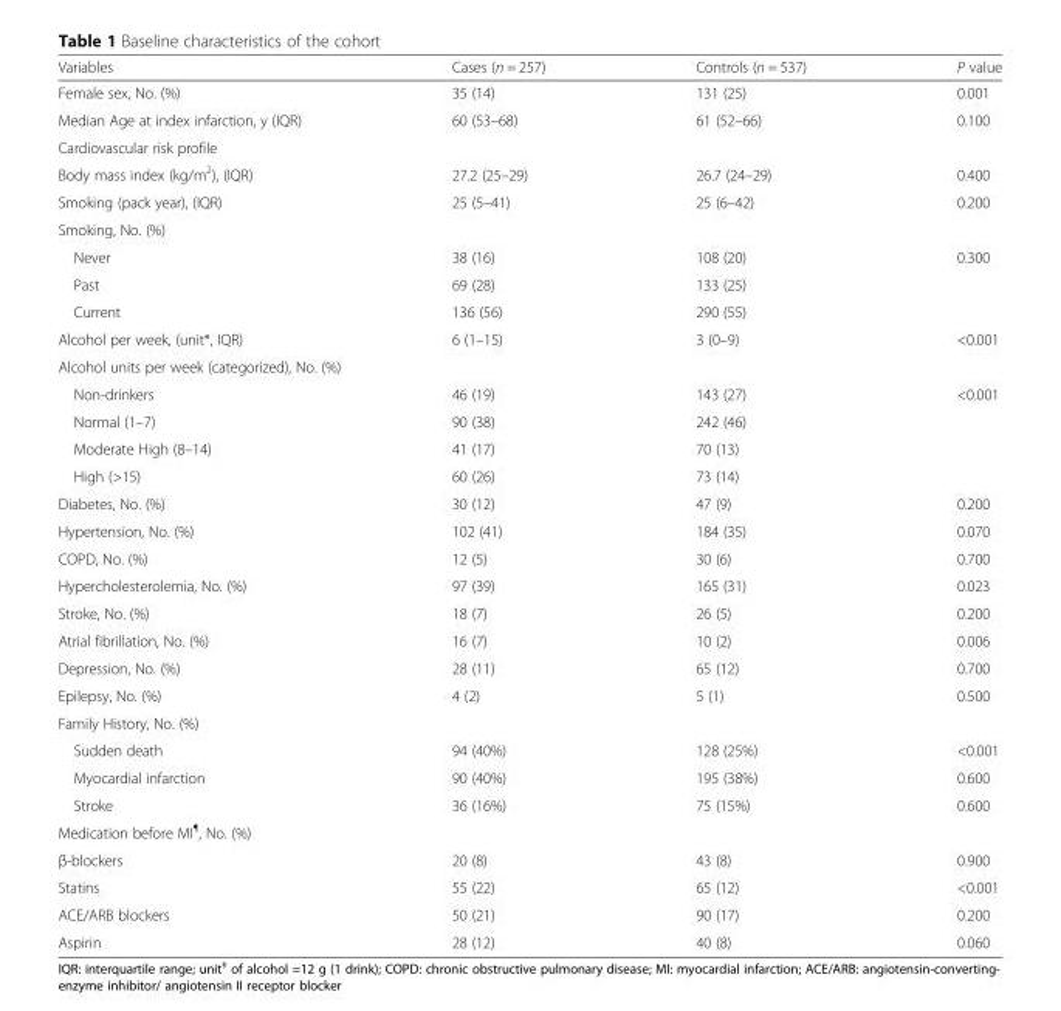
<table><thead><tr><td>Variables</td><td>Cases (n = 257)</td><td>Controls (n = 537)</td><td>P value</td></tr></thead><tbody><tr><td>Female sex, No. (%)</td><td>35 (14)</td><td>131 (25)</td><td>0.001</td></tr><tr><td>Median Age at index infarction, y (IQR)</td><td>60 (53–68)</td><td>61 (52–66)</td><td>0.100</td></tr><tr><td colspan="4">Cardiovascular risk profile</td></tr><tr><td>Body mass index (kg/m<sup>2</sup>), (IQR)</td><td>27.2 (25–29)</td><td>26.7 (24–29)</td><td>0.400</td></tr><tr><td>Smoking (pack year), (IQR)</td><td>25 (5–41)</td><td>25 (6–42)</td><td>0.200</td></tr><tr><td colspan="4">Smoking, No. (%)</td></tr><tr><td>Never</td><td>38 (16)</td><td>108 (20)</td><td rowspan="3">0.300</td></tr><tr><td>Past</td><td>69 (28)</td><td>133 (25)</td></tr><tr><td>Current</td><td>136 (56)</td><td>290 (55)</td></tr><tr><td>Alcohol per week, (unit*, IQR)</td><td>6 (1–15)</td><td>3 (0–9)</td><td>&lt;0.001</td></tr><tr><td colspan="4">Alcohol units per week (categorized), No. (%)</td></tr><tr><td>Non-drinkers</td><td>46 (19)</td><td>143 (27)</td><td rowspan="4">&lt;0.001</td></tr><tr><td>Normal (1–7)</td><td>90 (38)</td><td>242 (46)</td></tr><tr><td>Moderate High (8–14)</td><td>41 (17)</td><td>70 (13)</td></tr><tr><td>High (&gt;15)</td><td>60 (26)</td><td>73 (14)</td></tr><tr><td>Diabetes, No. (%)</td><td>30 (12)</td><td>47 (9)</td><td>0.200</td></tr><tr><td>Hypertension, No. (%)</td><td>102 (41)</td><td>184 (35)</td><td>0.070</td></tr><tr><td>COPD, No. (%)</td><td>12 (5)</td><td>30 (6)</td><td>0.700</td></tr><tr><td>Hypercholesterolemia, No. (%)</td><td>97 (39)</td><td>165 (31)</td><td>0.023</td></tr><tr><td>Stroke, No. (%)</td><td>18 (7)</td><td>26 (5)</td><td>0.200</td></tr><tr><td>Atrial fibrillation, No. (%)</td><td>16 (7)</td><td>10 (2)</td><td>0.006</td></tr><tr><td>Depression, No. (%)</td><td>28 (11)</td><td>65 (12)</td><td>0.700</td></tr><tr><td>Epilepsy, No. (%)</td><td>4 (2)</td><td>5 (1)</td><td>0.500</td></tr><tr><td colspan="4">Family History, No. (%)</td></tr><tr><td>Sudden death</td><td>94 (40%)</td><td>128 (25%)</td><td>&lt;0.001</td></tr><tr><td>Myocardial infarction</td><td>90 (40%)</td><td>195 (38%)</td><td>0.600</td></tr><tr><td>Stroke</td><td>36 (16%)</td><td>75 (15%)</td><td>0.600</td></tr><tr><td colspan="4">Medication before MI<sup>¶</sup>, No. (%)</td></tr><tr><td>β-blockers</td><td>20 (8)</td><td>43 (8)</td><td>0.900</td></tr><tr><td>Statins</td><td>55 (22)</td><td>65 (12)</td><td>&lt;0.001</td></tr><tr><td>ACE/ARB blockers</td><td>50 (21)</td><td>90 (17)</td><td>0.200</td></tr><tr><td>Aspirin</td><td>28 (12)</td><td>40 (8)</td><td>0.060</td></tr></tbody></table>